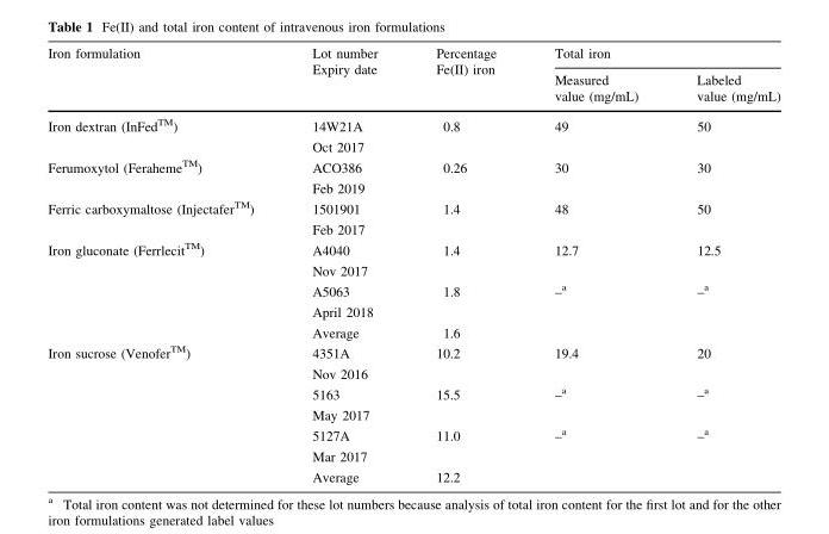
<table><thead><tr><td rowspan="2">Iron formulation</td><td rowspan="2">Lot number Expiry date</td><td rowspan="2">Percentage Fe(II) iron</td><td colspan="2">Total iron</td></tr><tr><td>Measured value (mg/mL)</td><td>Labeled value (mg/mL)</td></tr></thead><tbody><tr><td>Iron dextran (InFedTM)</td><td>14W21A Oct 2017</td><td>0.8</td><td>49</td><td>50</td></tr><tr><td>Ferumoxytol (FerahemeTM)</td><td>ACO386 Feb 2019</td><td>0.26</td><td>30</td><td>30</td></tr><tr><td>Ferric carboxymaltose (InjectaferTM)</td><td>1501901 Feb 2017</td><td>1.4</td><td>48</td><td>50</td></tr><tr><td rowspan="3">Iron gluconate (FerrlecitTM)</td><td>A4040 Nov 2017</td><td>1.4</td><td>12.7</td><td>12.5</td></tr><tr><td>A5063 April 2018</td><td>1.8</td><td>–<sup>a</sup></td><td>–<sup>a</sup></td></tr><tr><td>Average</td><td>1.6</td><td></td><td></td></tr><tr><td rowspan="4">Iron sucrose (VenoferTM)</td><td>4351A Nov 2016</td><td>10.2</td><td>19.4</td><td>20</td></tr><tr><td>5163 May 2017</td><td>15.5</td><td>–<sup>a</sup></td><td>–<sup>a</sup></td></tr><tr><td>5127A Mar 2017</td><td>11.0</td><td>–<sup>a</sup></td><td>–<sup>a</sup></td></tr><tr><td>Average</td><td>12.2</td><td></td><td></td></tr></tbody></table>